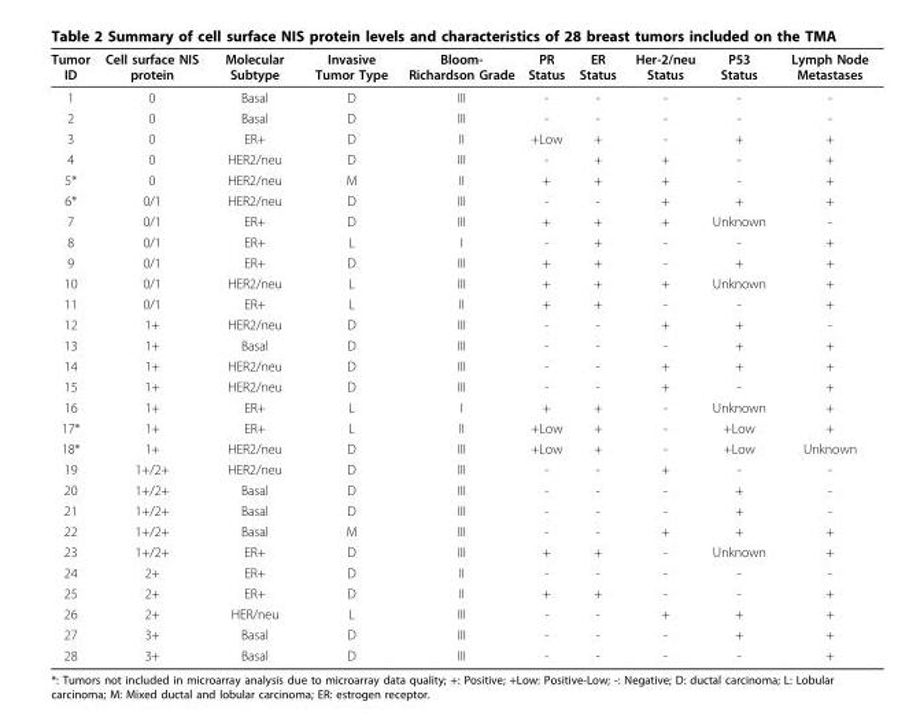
<table><thead><tr><td>Tumor ID</td><td>Cell surface NIS protein</td><td>Molecular Subtype</td><td>Invasive Tumor Type</td><td>Bloom- Richardson Grade</td><td>PR Status</td><td>ER Status</td><td>Her-2/neu Status</td><td>P53 Status</td><td>Lymph Node Metastases</td></tr></thead><tbody><tr><td>1</td><td>0</td><td>Basal</td><td>D</td><td>III</td><td>-</td><td>-</td><td>-</td><td>-</td><td>-</td></tr><tr><td>2</td><td>0</td><td>Basal</td><td>D</td><td>III</td><td>-</td><td>-</td><td>-</td><td>-</td><td>-</td></tr><tr><td>3</td><td>0</td><td>ER+</td><td>D</td><td>II</td><td>+Low</td><td>+</td><td>-</td><td>+</td><td>+</td></tr><tr><td>4</td><td>0</td><td>HER2/neu</td><td>D</td><td>III</td><td>-</td><td>+</td><td>+</td><td>-</td><td>+</td></tr><tr><td>5*</td><td>0</td><td>HER2/neu</td><td>M</td><td>II</td><td>+</td><td>+</td><td>+</td><td>-</td><td>+</td></tr><tr><td>6*</td><td>0/1</td><td>HER2/neu</td><td>D</td><td>III</td><td>-</td><td>-</td><td>+</td><td>+</td><td>+</td></tr><tr><td>7</td><td>0/1</td><td>ER+</td><td>D</td><td>III</td><td>+</td><td>+</td><td>+</td><td>Unknown</td><td>-</td></tr><tr><td>8</td><td>0/1</td><td>ER+</td><td>L</td><td>I</td><td>-</td><td>+</td><td>-</td><td>-</td><td>+</td></tr><tr><td>9</td><td>0/1</td><td>ER+</td><td>D</td><td>III</td><td>+</td><td>+</td><td>-</td><td>+</td><td>+</td></tr><tr><td>10</td><td>0/1</td><td>HER2/neu</td><td>L</td><td>III</td><td>+</td><td>+</td><td>+</td><td>Unknown</td><td>+</td></tr><tr><td>11</td><td>0/1</td><td>ER+</td><td>L</td><td>II</td><td>+</td><td>+</td><td>-</td><td>-</td><td>+</td></tr><tr><td>12</td><td>1+</td><td>HER2/neu</td><td>D</td><td>III</td><td>-</td><td>-</td><td>+</td><td>+</td><td>-</td></tr><tr><td>13</td><td>1+</td><td>Basal</td><td>D</td><td>III</td><td>-</td><td>-</td><td>-</td><td>+</td><td>+</td></tr><tr><td>14</td><td>1+</td><td>HER2/neu</td><td>D</td><td>III</td><td>-</td><td>-</td><td>+</td><td>+</td><td>+</td></tr><tr><td>15</td><td>1+</td><td>HER2/neu</td><td>D</td><td>III</td><td>-</td><td>-</td><td>+</td><td>-</td><td>+</td></tr><tr><td>16</td><td>1+</td><td>ER+</td><td>L</td><td>I</td><td>+</td><td>+</td><td>-</td><td>Unknown</td><td>+</td></tr><tr><td>17*</td><td>1+</td><td>ER+</td><td>L</td><td>II</td><td>+Low</td><td>+</td><td>-</td><td>+Low</td><td>+</td></tr><tr><td>18*</td><td>1+</td><td>HER2/neu</td><td>D</td><td>III</td><td>+Low</td><td>+</td><td>-</td><td>+Low</td><td>Unknown</td></tr><tr><td>19</td><td>1+/2+</td><td>HER2/neu</td><td>D</td><td>III</td><td>-</td><td>-</td><td>+</td><td>-</td><td>-</td></tr><tr><td>20</td><td>1+/2+</td><td>Basal</td><td>D</td><td>III</td><td>-</td><td>-</td><td>-</td><td>+</td><td>-</td></tr><tr><td>21</td><td>1+/2+</td><td>Basal</td><td>D</td><td>III</td><td>-</td><td>-</td><td>-</td><td>+</td><td>-</td></tr><tr><td>22</td><td>1+/2+</td><td>Basal</td><td>M</td><td>III</td><td>-</td><td>-</td><td>+</td><td>+</td><td>+</td></tr><tr><td>23</td><td>1+/2+</td><td>ER+</td><td>D</td><td>III</td><td>+</td><td>+</td><td>-</td><td>Unknown</td><td>+</td></tr><tr><td>24</td><td>2+</td><td>ER+</td><td>D</td><td>II</td><td>-</td><td>-</td><td>-</td><td>-</td><td>-</td></tr><tr><td>25</td><td>2+</td><td>ER+</td><td>D</td><td>II</td><td>+</td><td>+</td><td>-</td><td>-</td><td>+</td></tr><tr><td>26</td><td>2+</td><td>HER/neu</td><td>L</td><td>III</td><td>-</td><td>-</td><td>+</td><td>+</td><td>+</td></tr><tr><td>27</td><td>3+</td><td>Basal</td><td>D</td><td>III</td><td>-</td><td>-</td><td>-</td><td>+</td><td>+</td></tr><tr><td>28</td><td>3+</td><td>Basal</td><td>D</td><td>III</td><td>-</td><td>-</td><td>-</td><td>-</td><td>+</td></tr></tbody></table>